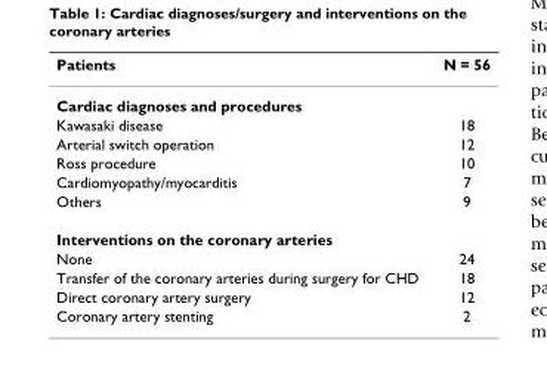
<table><thead><tr><td>Patients</td><td>N = 56</td></tr></thead><tbody><tr><td colspan="2">Cardiac diagnoses and procedures</td></tr><tr><td>Kawasaki disease</td><td>18</td></tr><tr><td>Arterial switch operation</td><td>12</td></tr><tr><td>Ross procedure</td><td>10</td></tr><tr><td>Cardiomyopathy/myocarditis</td><td>7</td></tr><tr><td>Others</td><td>9</td></tr><tr><td colspan="2">Interventions on the coronary arteries</td></tr><tr><td>None</td><td>24</td></tr><tr><td>Transfer of the coronary arteries during surgery for CHD</td><td>18</td></tr><tr><td>Direct coronary artery surgery</td><td>12</td></tr><tr><td>Coronary artery stenting</td><td>2</td></tr></tbody></table>